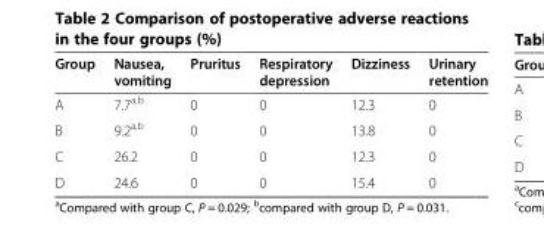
<table><thead><tr><td>Group</td><td>Nausea, vomiting</td><td>Pruritus</td><td>Respiratory depression</td><td>Dizziness</td><td>Urinary retention</td></tr></thead><tbody><tr><td>A</td><td>7.7<sup>a,b</sup></td><td>0</td><td>0</td><td>12.3</td><td>0</td></tr><tr><td>B</td><td>9.2<sup>a,b</sup></td><td>0</td><td>0</td><td>13.8</td><td>0</td></tr><tr><td>C</td><td>26.2</td><td>0</td><td>0</td><td>12.3</td><td>0</td></tr><tr><td>D</td><td>24.6</td><td>0</td><td>0</td><td>15.4</td><td>0</td></tr></tbody></table>